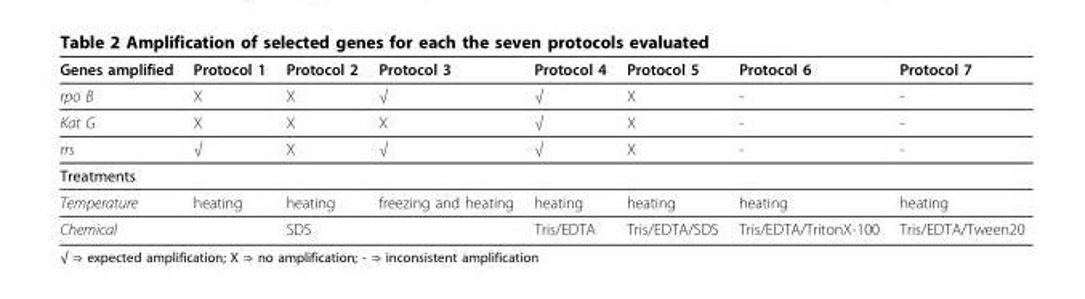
<table><thead><tr><td>Genes amplified</td><td>Protocol 1</td><td>Protocol 2</td><td>Protocol 3</td><td>Protocol 4</td><td>Protocol 5</td><td>Protocol 6</td><td>Protocol 7</td></tr></thead><tbody><tr><td>rpo B</td><td>X</td><td>X</td><td>√</td><td>√</td><td>X</td><td>-</td><td>-</td></tr><tr><td>Kat G</td><td>X</td><td>X</td><td>X</td><td>√</td><td>X</td><td>-</td><td>-</td></tr><tr><td>rrs</td><td>√</td><td>X</td><td>√</td><td>√</td><td>X</td><td>-</td><td>-</td></tr><tr><td colspan="8">Treatments</td></tr><tr><td>Temperature</td><td>heating</td><td>heating</td><td>freezing and heating</td><td>heating</td><td>heating</td><td>heating</td><td>heating</td></tr><tr><td>Chemical</td><td></td><td>SDS</td><td></td><td>Tris/EDTA</td><td>Tris/EDTA/SDS</td><td>Tris/EDTA/TritonX-100</td><td>Tris/EDTA/Tween20</td></tr></tbody></table>